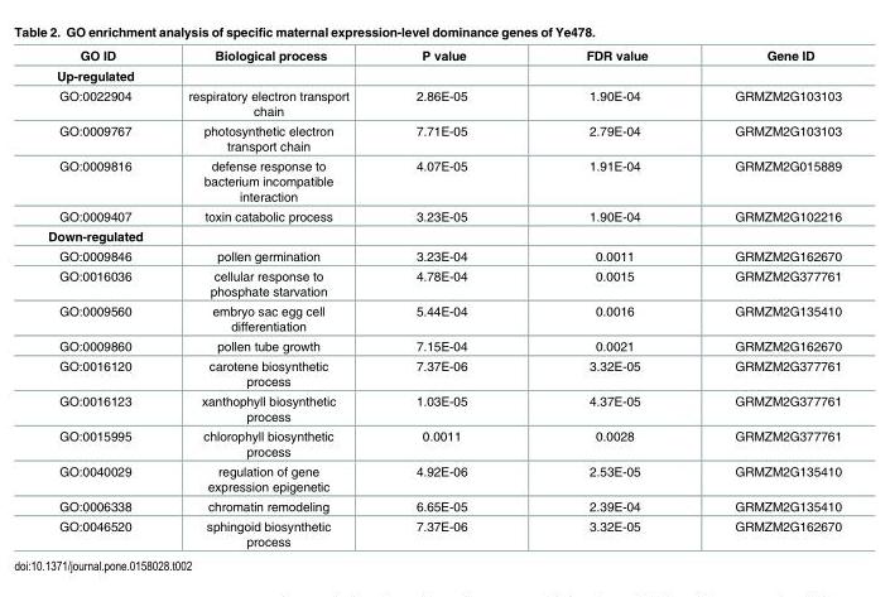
<table><thead><tr><td>GO ID</td><td>Biological process</td><td>P value</td><td>FDR value</td><td>Gene ID</td></tr></thead><tbody><tr><td colspan="5">Up-regulated</td></tr><tr><td>GO:0022904</td><td>respiratory electron transport chain</td><td>2.86E-05</td><td>1.90E-04</td><td>GRMZM2G103103</td></tr><tr><td>GO:0009767</td><td>photosynthetic electron transport chain</td><td>7.71E-05</td><td>2.79E-04</td><td>GRMZM2G103103</td></tr><tr><td>GO:0009816</td><td>defense response to bacterium incompatible interaction</td><td>4.07E-05</td><td>1.91E-04</td><td>GRMZM2G015889</td></tr><tr><td>GO:0009407</td><td>toxin catabolic process</td><td>3.23E-05</td><td>1.90E-04</td><td>GRMZM2G102216</td></tr><tr><td colspan="5">Down-regulated</td></tr><tr><td>GO:0009846</td><td>pollen germination</td><td>3.23E-04</td><td>0.0011</td><td>GRMZM2G162670</td></tr><tr><td>GO:0016036</td><td>cellular response to phosphate starvation</td><td>4.78E-04</td><td>0.0015</td><td>GRMZM2G377761</td></tr><tr><td>GO:0009560</td><td>embryo sac egg cell differentiation</td><td>5.44E-04</td><td>0.0016</td><td>GRMZM2G135410</td></tr><tr><td>GO:0009860</td><td>pollen tube growth</td><td>7.15E-04</td><td>0.0021</td><td>GRMZM2G162670</td></tr><tr><td>GO:0016120</td><td>carotene biosynthetic process</td><td>7.37E-06</td><td>3.32E-05</td><td>GRMZM2G377761</td></tr><tr><td>GO:0016123</td><td>xanthophyll biosynthetic process</td><td>1.03E-05</td><td>4.37E-05</td><td>GRMZM2G377761</td></tr><tr><td>GO:0015995</td><td>chlorophyll biosynthetic process</td><td>0.0011</td><td>0.0028</td><td>GRMZM2G377761</td></tr><tr><td>GO:0040029</td><td>regulation of gene expression epigenetic</td><td>4.92E-06</td><td>2.53E-05</td><td>GRMZM2G135410</td></tr><tr><td>GO:0006338</td><td>chromatin remodeling</td><td>6.65E-05</td><td>2.39E-04</td><td>GRMZM2G135410</td></tr><tr><td>GO:0046520</td><td>sphingoid biosynthetic process</td><td>7.37E-06</td><td>3.32E-05</td><td>GRMZM2G162670</td></tr></tbody></table>